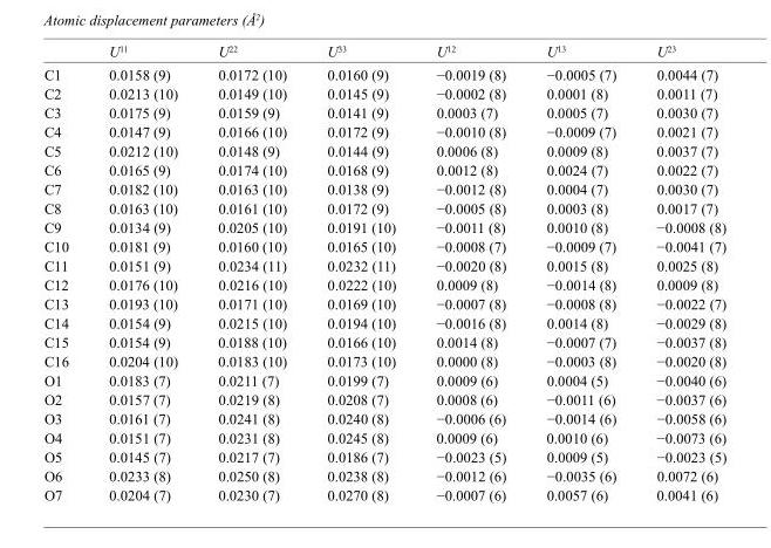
<table><thead><tr><td></td><td>U<sup>11</sup></td><td>U<sup>22</sup></td><td>U<sup>33</sup></td><td>U<sup>12</sup></td><td>U<sup>13</sup></td><td>U<sup>23</sup></td></tr></thead><tbody><tr><td>C1</td><td>0.0158 (9)</td><td>0.0172 (10)</td><td>0.0160 (9)</td><td>−0.0019 (8)</td><td>−0.0005 (7)</td><td>0.0044 (7)</td></tr><tr><td>C2</td><td>0.0213 (10)</td><td>0.0149 (10)</td><td>0.0145 (9)</td><td>−0.0002 (8)</td><td>0.0001 (8)</td><td>0.0011 (7)</td></tr><tr><td>C3</td><td>0.0175 (9)</td><td>0.0159 (9)</td><td>0.0141 (9)</td><td>0.0003 (7)</td><td>0.0005 (7)</td><td>0.0030 (7)</td></tr><tr><td>C4</td><td>0.0147 (9)</td><td>0.0166 (10)</td><td>0.0172 (9)</td><td>−0.0010 (8)</td><td>−0.0009 (7)</td><td>0.0021 (7)</td></tr><tr><td>C5</td><td>0.0212 (10)</td><td>0.0148 (9)</td><td>0.0144 (9)</td><td>0.0006 (8)</td><td>0.0009 (8)</td><td>0.0037 (7)</td></tr><tr><td>C6</td><td>0.0165 (9)</td><td>0.0174 (10)</td><td>0.0168 (9)</td><td>0.0012 (8)</td><td>0.0024 (7)</td><td>0.0022 (7)</td></tr><tr><td>C7</td><td>0.0182 (10)</td><td>0.0163 (10)</td><td>0.0138 (9)</td><td>−0.0012 (8)</td><td>0.0004 (7)</td><td>0.0030 (7)</td></tr><tr><td>C8</td><td>0.0163 (10)</td><td>0.0161 (10)</td><td>0.0172 (9)</td><td>−0.0005 (8)</td><td>0.0003 (8)</td><td>0.0017 (7)</td></tr><tr><td>C9</td><td>0.0134 (9)</td><td>0.0205 (10)</td><td>0.0191 (10)</td><td>−0.0011 (8)</td><td>0.0010 (8)</td><td>−0.0008 (8)</td></tr><tr><td>C10</td><td>0.0181 (9)</td><td>0.0160 (10)</td><td>0.0165 (10)</td><td>−0.0008 (7)</td><td>−0.0009 (7)</td><td>−0.0041 (7)</td></tr><tr><td>C11</td><td>0.0151 (9)</td><td>0.0234 (11)</td><td>0.0232 (11)</td><td>−0.0020 (8)</td><td>0.0015 (8)</td><td>0.0025 (8)</td></tr><tr><td>C12</td><td>0.0176 (10)</td><td>0.0216 (10)</td><td>0.0222 (10)</td><td>0.0009 (8)</td><td>−0.0014 (8)</td><td>0.0009 (8)</td></tr><tr><td>C13</td><td>0.0193 (10)</td><td>0.0171 (10)</td><td>0.0169 (10)</td><td>−0.0007 (8)</td><td>−0.0008 (8)</td><td>−0.0022 (7)</td></tr><tr><td>C14</td><td>0.0154 (9)</td><td>0.0215 (10)</td><td>0.0194 (10)</td><td>−0.0016 (8)</td><td>0.0014 (8)</td><td>−0.0029 (8)</td></tr><tr><td>C15</td><td>0.0154 (9)</td><td>0.0188 (10)</td><td>0.0166 (10)</td><td>0.0014 (8)</td><td>−0.0007 (7)</td><td>−0.0037 (8)</td></tr><tr><td>C16</td><td>0.0204 (10)</td><td>0.0183 (10)</td><td>0.0173 (10)</td><td>0.0000 (8)</td><td>−0.0003 (8)</td><td>−0.0020 (8)</td></tr><tr><td>O1</td><td>0.0183 (7)</td><td>0.0211 (7)</td><td>0.0199 (7)</td><td>0.0009 (6)</td><td>0.0004 (5)</td><td>−0.0040 (6)</td></tr><tr><td>O2</td><td>0.0157 (7)</td><td>0.0219 (8)</td><td>0.0208 (7)</td><td>0.0008 (6)</td><td>−0.0011 (6)</td><td>−0.0037 (6)</td></tr><tr><td>O3</td><td>0.0161 (7)</td><td>0.0241 (8)</td><td>0.0240 (8)</td><td>−0.0006 (6)</td><td>−0.0014 (6)</td><td>−0.0058 (6)</td></tr><tr><td>O4</td><td>0.0151 (7)</td><td>0.0231 (8)</td><td>0.0245 (8)</td><td>0.0009 (6)</td><td>0.0010 (6)</td><td>−0.0073 (6)</td></tr><tr><td>O5</td><td>0.0145 (7)</td><td>0.0217 (7)</td><td>0.0186 (7)</td><td>−0.0023 (5)</td><td>0.0009 (5)</td><td>−0.0023 (5)</td></tr><tr><td>O6</td><td>0.0233 (8)</td><td>0.0250 (8)</td><td>0.0238 (8)</td><td>−0.0012 (6)</td><td>−0.0035 (6)</td><td>0.0072 (6)</td></tr><tr><td>O7</td><td>0.0204 (7)</td><td>0.0230 (7)</td><td>0.0270 (8)</td><td>−0.0007 (6)</td><td>0.0057 (6)</td><td>0.0041 (6)</td></tr></tbody></table>